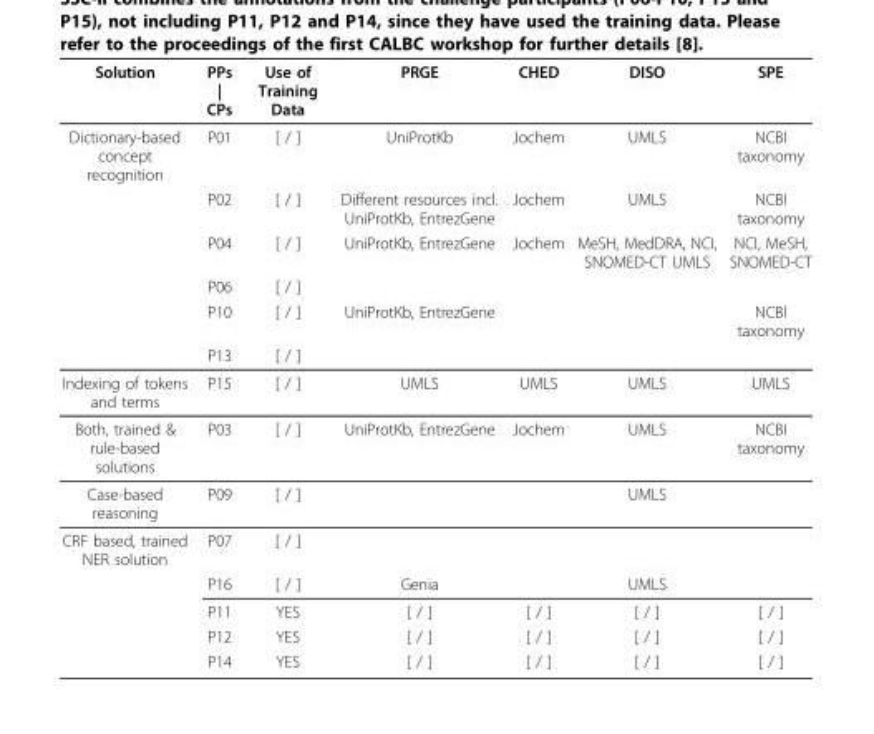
<table><thead><tr><td>Solution</td><td>PPs | CPs</td><td>Use of Training Data</td><td>PRGE</td><td>CHED</td><td>DISO</td><td>SPE</td></tr></thead><tbody><tr><td rowspan="6">Dictionary-based concept recognition</td><td>P01</td><td>[ / ]</td><td>UniProtKb</td><td>Jochem</td><td>UMLS</td><td>NCBI taxonomy</td></tr><tr><td>P02</td><td>[ / ]</td><td>Different resources incl. UniProtKb, EntrezGene</td><td>Jochem</td><td>UMLS</td><td>NCBI taxonomy</td></tr><tr><td>P04</td><td>[ / ]</td><td>UniProtKb, EntrezGene</td><td>Jochem</td><td>MeSH, MedDRA, NCI, SNOMED-CT UMLS</td><td>NCI, MeSH, SNOMED-CT</td></tr><tr><td>P06</td><td>[ / ]</td><td></td><td></td><td></td><td></td></tr><tr><td>P10</td><td>[ / ]</td><td>UniProtKb, EntrezGene</td><td></td><td></td><td>NCBI taxonomy</td></tr><tr><td>P13</td><td>[ / ]</td><td></td><td></td><td></td><td></td></tr><tr><td>Indexing of tokens and terms</td><td>P15</td><td>[ / ]</td><td>UMLS</td><td>UMLS</td><td>UMLS</td><td>UMLS</td></tr><tr><td>Both, trained &amp; rule-based solutions</td><td>P03</td><td>[ / ]</td><td>UniProtKb, EntrezGene</td><td>Jochem</td><td>UMLS</td><td>NCBI taxonomy</td></tr><tr><td>Case-based reasoning</td><td>P09</td><td>[ / ]</td><td></td><td></td><td>UMLS</td><td></td></tr><tr><td rowspan="5">CRF based, trained NER solution</td><td>P07</td><td>[ / ]</td><td></td><td></td><td></td><td></td></tr><tr><td>P16</td><td>[ / ]</td><td>Genia</td><td></td><td>UMLS</td><td></td></tr><tr><td>P11</td><td>YES</td><td>[ / ]</td><td>[ / ]</td><td>[ / ]</td><td>[ / ]</td></tr><tr><td>P12</td><td>YES</td><td>[ / ]</td><td>[ / ]</td><td>[ / ]</td><td>[ / ]</td></tr><tr><td>P14</td><td>YES</td><td>[ / ]</td><td>[ / ]</td><td>[ / ]</td><td>[ / ]</td></tr></tbody></table>